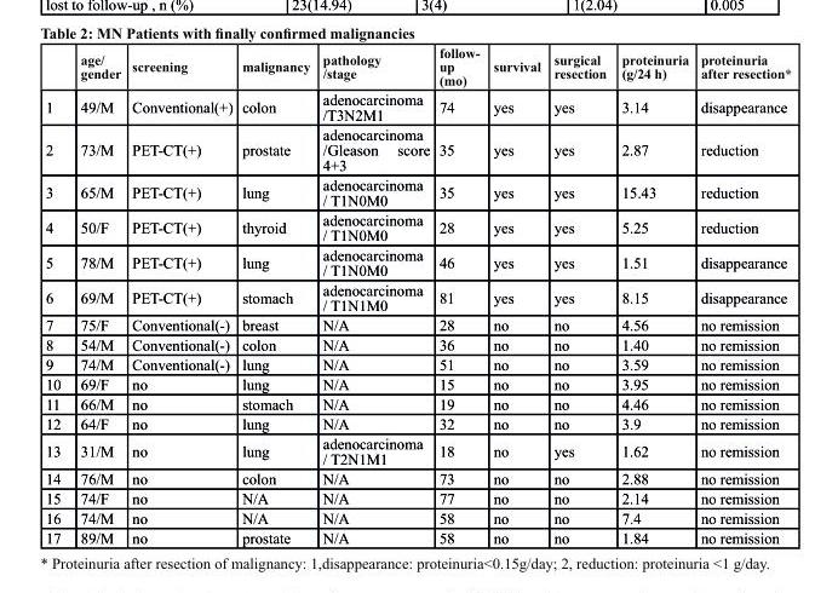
<table><thead><tr><td></td><td>age/ gender</td><td>screening</td><td>malignancy</td><td>pathology /stage</td><td>follow- up (mo)</td><td>survival</td><td>surgical resection</td><td>proteinuria (g/24 h)</td><td>proteinuria after resection*</td></tr></thead><tbody><tr><td>1</td><td>49/M</td><td>Conventional(+)</td><td>colon</td><td>adenocarcinoma /T3N2M1</td><td>74</td><td>yes</td><td>yes</td><td>3.14</td><td>disappearance</td></tr><tr><td>2</td><td>73/M</td><td>PET-CT(+)</td><td>prostate</td><td>adenocarcinoma /Gleason score 4+3</td><td>35</td><td>yes</td><td>yes</td><td>2.87</td><td>reduction</td></tr><tr><td>3</td><td>65/M</td><td>PET-CT(+)</td><td>lung</td><td>adenocarcinoma / T1N0M0</td><td>35</td><td>yes</td><td>yes</td><td>15.43</td><td>reduction</td></tr><tr><td>4</td><td>50/F</td><td>PET-CT(+)</td><td>thyroid</td><td>adenocarcinoma / T1N0M0</td><td>28</td><td>yes</td><td>yes</td><td>5.25</td><td>reduction</td></tr><tr><td>5</td><td>78/M</td><td>PET-CT(+)</td><td>lung</td><td>adenocarcinoma / T1N0M0</td><td>46</td><td>yes</td><td>yes</td><td>1.51</td><td>disappearance</td></tr><tr><td>6</td><td>69/M</td><td>PET-CT(+)</td><td>stomach</td><td>adenocarcinoma / T1N1M0</td><td>81</td><td>yes</td><td>yes</td><td>8.15</td><td>disappearance</td></tr><tr><td>7</td><td>75/F</td><td>Conventional(-)</td><td>breast</td><td>N/A</td><td>28</td><td>no</td><td>no</td><td>4.56</td><td>no remission</td></tr><tr><td>8</td><td>54/M</td><td>Conventional(-)</td><td>colon</td><td>N/A</td><td>36</td><td>no</td><td>no</td><td>1.40</td><td>no remission</td></tr><tr><td>9</td><td>74/M</td><td>Conventional(-)</td><td>lung</td><td>N/A</td><td>51</td><td>no</td><td>no</td><td>3.59</td><td>no remission</td></tr><tr><td>10</td><td>69/F</td><td>no</td><td>lung</td><td>N/A</td><td>15</td><td>no</td><td>no</td><td>3.95</td><td>no remission</td></tr><tr><td>11</td><td>66/M</td><td>no</td><td>stomach</td><td>N/A</td><td>19</td><td>no</td><td>no</td><td>4.46</td><td>no remission</td></tr><tr><td>12</td><td>64/F</td><td>no</td><td>lung</td><td>N/A</td><td>32</td><td>no</td><td>no</td><td>3.9</td><td>no remission</td></tr><tr><td>13</td><td>31/M</td><td>no</td><td>lung</td><td>adenocarcinoma / T2N1M1</td><td>18</td><td>no</td><td>yes</td><td>1.62</td><td>no remission</td></tr><tr><td>14</td><td>76/M</td><td>no</td><td>colon</td><td>N/A</td><td>73</td><td>no</td><td>no</td><td>2.88</td><td>no remission</td></tr><tr><td>15</td><td>74/F</td><td>no</td><td>N/A</td><td>N/A</td><td>77</td><td>no</td><td>no</td><td>2.14</td><td>no remission</td></tr><tr><td>16</td><td>74/M</td><td>no</td><td>N/A</td><td>N/A</td><td>58</td><td>no</td><td>no</td><td>7.4</td><td>no remission</td></tr><tr><td>17</td><td>89/M</td><td>no</td><td>prostate</td><td>N/A</td><td>58</td><td>no</td><td>no</td><td>1.84</td><td>no remission</td></tr></tbody></table>